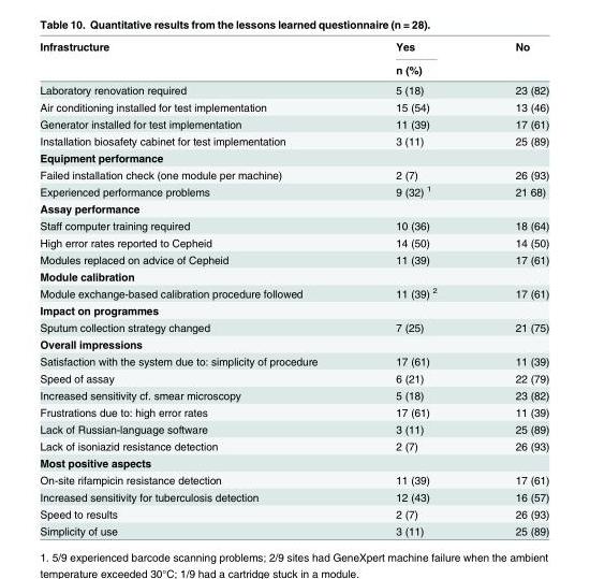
<table><thead><tr><td rowspan="2">Infrastructure</td><td>Yes</td><td>No</td></tr><tr><td colspan="2">n (%)</td></tr></thead><tbody><tr><td>Laboratory renovation required</td><td>5 (18)</td><td>23 (82)</td></tr><tr><td>Air conditioning installed for test implementation</td><td>15 (54)</td><td>13 (46)</td></tr><tr><td>Generator installed for test implementation</td><td>11 (39)</td><td>17 (61)</td></tr><tr><td>Installation biosafety cabinet for test implementation</td><td>3 (11)</td><td>25 (89)</td></tr><tr><td colspan="3">Equipment performance</td></tr><tr><td>Failed installation check (one module per machine)</td><td>2 (7)</td><td>26 (93)</td></tr><tr><td>Experienced performance problems</td><td>9 (32) <sup>1</sup></td><td>21 68)</td></tr><tr><td colspan="3">Assay performance</td></tr><tr><td>Staff computer training required</td><td>10 (36)</td><td>18 (64)</td></tr><tr><td>High error rates reported to Cepheid</td><td>14 (50)</td><td>14 (50)</td></tr><tr><td>Modules replaced on advice of Cepheid</td><td>11 (39)</td><td>17 (61)</td></tr><tr><td colspan="3">Module calibration</td></tr><tr><td>Module exchange-based calibration procedure followed</td><td>11 (39) <sup>2</sup></td><td>17 (61)</td></tr><tr><td colspan="3">Impact on programmes</td></tr><tr><td>Sputum collection strategy changed</td><td>7 (25)</td><td>21 (75)</td></tr><tr><td colspan="3">Overall impressions</td></tr><tr><td>Satisfaction with the system due to: simplicity of procedure</td><td>17 (61)</td><td>11 (39)</td></tr><tr><td>Speed of assay</td><td>6 (21)</td><td>22 (79)</td></tr><tr><td>Increased sensitivity cf. smear microscopy</td><td>5 (18)</td><td>23 (82)</td></tr><tr><td>Frustrations due to: high error rates</td><td>17 (61)</td><td>11 (39)</td></tr><tr><td>Lack of Russian-language software</td><td>3 (11)</td><td>25 (89)</td></tr><tr><td>Lack of isoniazid resistance detection</td><td>2 (7)</td><td>26 (93)</td></tr><tr><td colspan="3">Most positive aspects</td></tr><tr><td>On-site rifampicin resistance detection</td><td>11 (39)</td><td>17 (61)</td></tr><tr><td>Increased sensitivity for tuberculosis detection</td><td>12 (43)</td><td>16 (57)</td></tr><tr><td>Speed to results</td><td>2 (7)</td><td>26 (93)</td></tr><tr><td>Simplicity of use</td><td>3 (11)</td><td>25 (89)</td></tr></tbody></table>